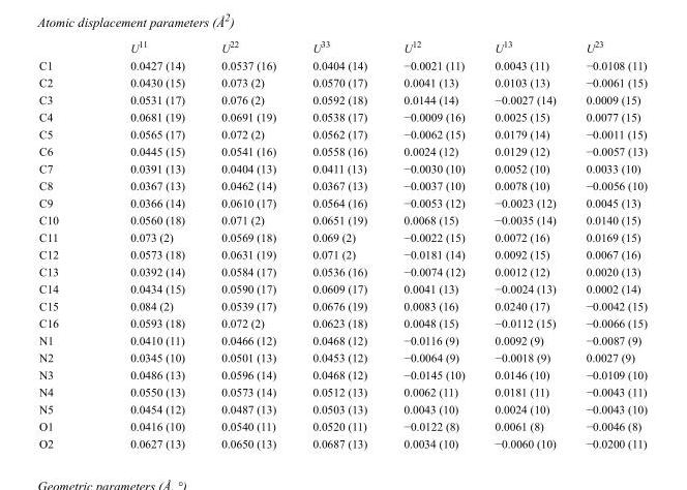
<table><thead><tr><td></td><td>U<sup>11</sup></td><td>U<sup>22</sup></td><td>U<sup>33</sup></td><td>U<sup>12</sup></td><td>U<sup>13</sup></td><td>U<sup>23</sup></td></tr></thead><tbody><tr><td>C1</td><td>0.0427 (14)</td><td>0.0537 (16)</td><td>0.0404 (14)</td><td>−0.0021 (11)</td><td>0.0043 (11)</td><td>−0.0108 (11)</td></tr><tr><td>C2</td><td>0.0430 (15)</td><td>0.073 (2)</td><td>0.0570 (17)</td><td>0.0041 (13)</td><td>0.0103 (13)</td><td>−0.0061 (15)</td></tr><tr><td>C3</td><td>0.0531 (17)</td><td>0.076 (2)</td><td>0.0592 (18)</td><td>0.0144 (14)</td><td>−0.0027 (14)</td><td>0.0009 (15)</td></tr><tr><td>C4</td><td>0.0681 (19)</td><td>0.0691 (19)</td><td>0.0538 (17)</td><td>−0.0009 (16)</td><td>0.0025 (15)</td><td>0.0077 (15)</td></tr><tr><td>C5</td><td>0.0565 (17)</td><td>0.072 (2)</td><td>0.0562 (17)</td><td>−0.0062 (15)</td><td>0.0179 (14)</td><td>−0.0011 (15)</td></tr><tr><td>C6</td><td>0.0445 (15)</td><td>0.0541 (16)</td><td>0.0558 (16)</td><td>0.0024 (12)</td><td>0.0129 (12)</td><td>−0.0057 (13)</td></tr><tr><td>C7</td><td>0.0391 (13)</td><td>0.0404 (13)</td><td>0.0411 (13)</td><td>−0.0030 (10)</td><td>0.0052 (10)</td><td>0.0033 (10)</td></tr><tr><td>C8</td><td>0.0367 (13)</td><td>0.0462 (14)</td><td>0.0367 (13)</td><td>−0.0037 (10)</td><td>0.0078 (10)</td><td>−0.0056 (10)</td></tr><tr><td>C9</td><td>0.0366 (14)</td><td>0.0610 (17)</td><td>0.0564 (16)</td><td>−0.0053 (12)</td><td>−0.0023 (12)</td><td>0.0045 (13)</td></tr><tr><td>C10</td><td>0.0560 (18)</td><td>0.071 (2)</td><td>0.0651 (19)</td><td>0.0068 (15)</td><td>−0.0035 (14)</td><td>0.0140 (15)</td></tr><tr><td>C11</td><td>0.073 (2)</td><td>0.0569 (18)</td><td>0.069 (2)</td><td>−0.0022 (15)</td><td>0.0072 (16)</td><td>0.0169 (15)</td></tr><tr><td>C12</td><td>0.0573 (18)</td><td>0.0631 (19)</td><td>0.071 (2)</td><td>−0.0181 (14)</td><td>0.0092 (15)</td><td>0.0067 (16)</td></tr><tr><td>C13</td><td>0.0392 (14)</td><td>0.0584 (17)</td><td>0.0536 (16)</td><td>−0.0074 (12)</td><td>0.0012 (12)</td><td>0.0020 (13)</td></tr><tr><td>C14</td><td>0.0434 (15)</td><td>0.0590 (17)</td><td>0.0609 (17)</td><td>0.0041 (13)</td><td>−0.0024 (13)</td><td>0.0002 (14)</td></tr><tr><td>C15</td><td>0.084 (2)</td><td>0.0539 (17)</td><td>0.0676 (19)</td><td>0.0083 (16)</td><td>0.0240 (17)</td><td>−0.0042 (15)</td></tr><tr><td>C16</td><td>0.0593 (18)</td><td>0.072 (2)</td><td>0.0623 (18)</td><td>0.0048 (15)</td><td>−0.0112 (15)</td><td>−0.0066 (15)</td></tr><tr><td>N1</td><td>0.0410 (11)</td><td>0.0466 (12)</td><td>0.0468 (12)</td><td>−0.0116 (9)</td><td>0.0092 (9)</td><td>−0.0087 (9)</td></tr><tr><td>N2</td><td>0.0345 (10)</td><td>0.0501 (13)</td><td>0.0453 (12)</td><td>−0.0064 (9)</td><td>−0.0018 (9)</td><td>0.0027 (9)</td></tr><tr><td>N3</td><td>0.0486 (13)</td><td>0.0596 (14)</td><td>0.0468 (12)</td><td>−0.0145 (10)</td><td>0.0146 (10)</td><td>−0.0109 (10)</td></tr><tr><td>N4</td><td>0.0550 (13)</td><td>0.0573 (14)</td><td>0.0512 (13)</td><td>0.0062 (11)</td><td>0.0181 (11)</td><td>−0.0043 (11)</td></tr><tr><td>N5</td><td>0.0454 (12)</td><td>0.0487 (13)</td><td>0.0503 (13)</td><td>0.0043 (10)</td><td>0.0024 (10)</td><td>−0.0043 (10)</td></tr><tr><td>O1</td><td>0.0416 (10)</td><td>0.0540 (11)</td><td>0.0520 (11)</td><td>−0.0122 (8)</td><td>0.0061 (8)</td><td>−0.0046 (8)</td></tr><tr><td>O2</td><td>0.0627 (13)</td><td>0.0650 (13)</td><td>0.0687 (13)</td><td>0.0034 (10)</td><td>−0.0060 (10)</td><td>−0.0200 (11)</td></tr></tbody></table>